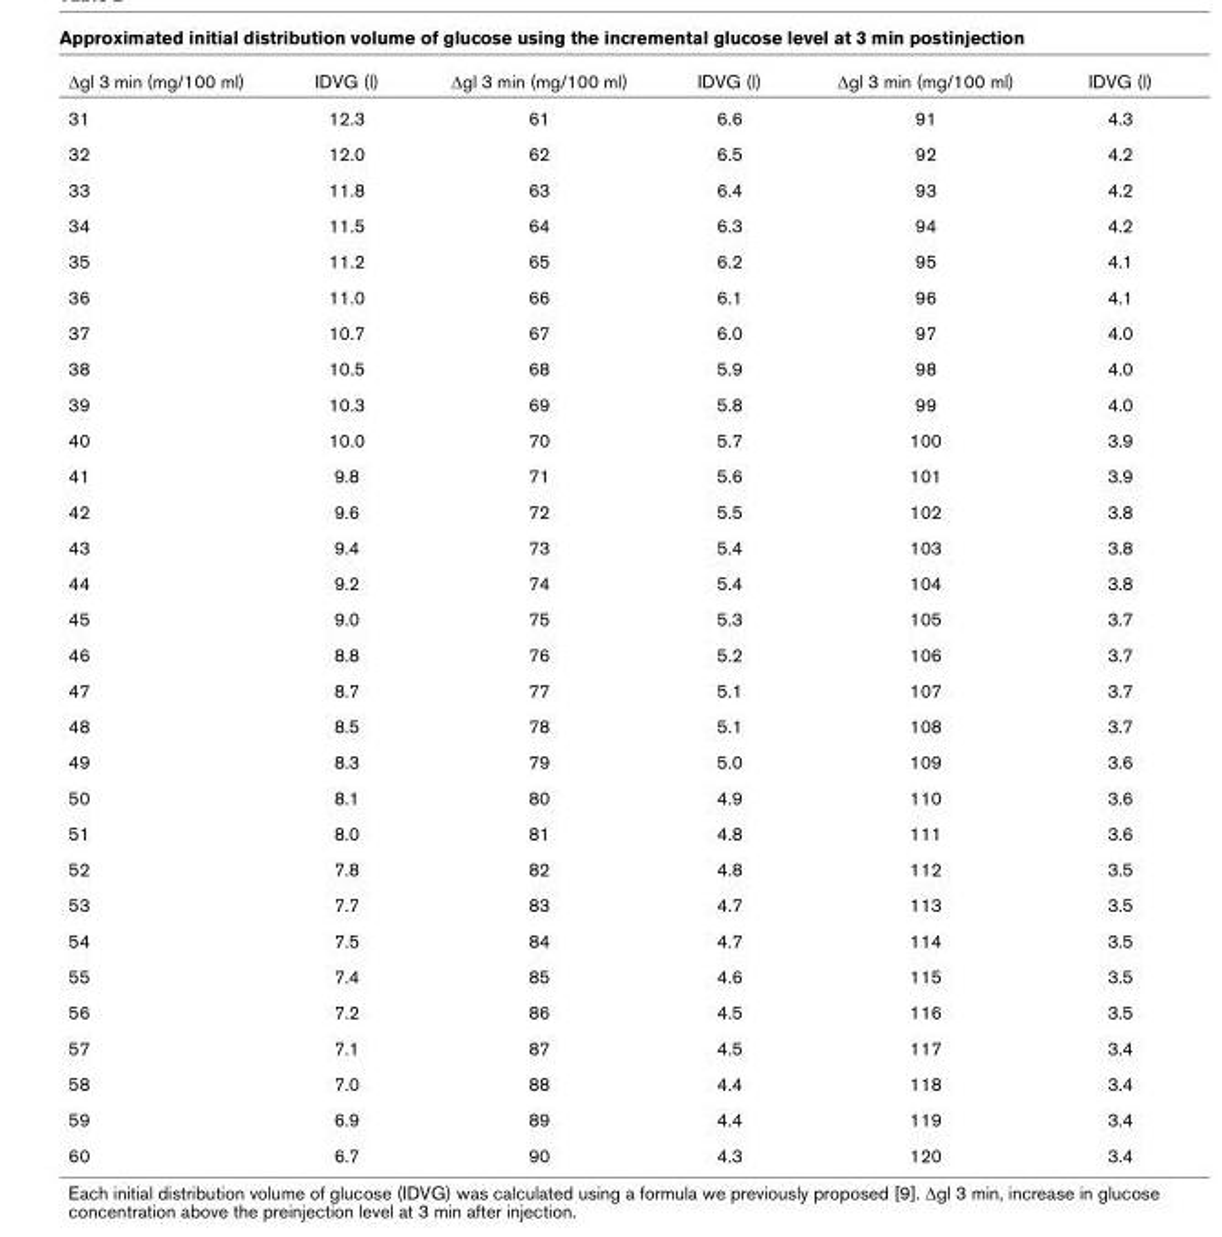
<table><thead><tr><td>∆gl 3 min (mg/100 ml)</td><td>IDVG (l)</td><td>∆gl 3 min (mg/100 ml)</td><td>IDVG (l)</td><td>∆gl 3 min (mg/100 ml)</td><td>IDVG (l)</td></tr></thead><tbody><tr><td>31</td><td>12.3</td><td>61</td><td>6.6</td><td>91</td><td>4.3</td></tr><tr><td>32</td><td>12.0</td><td>62</td><td>6.5</td><td>92</td><td>4.2</td></tr><tr><td>33</td><td>11.8</td><td>63</td><td>6.4</td><td>93</td><td>4.2</td></tr><tr><td>34</td><td>11.5</td><td>64</td><td>6.3</td><td>94</td><td>4.2</td></tr><tr><td>35</td><td>11.2</td><td>65</td><td>6.2</td><td>95</td><td>4.1</td></tr><tr><td>36</td><td>11.0</td><td>66</td><td>6.1</td><td>96</td><td>4.1</td></tr><tr><td>37</td><td>10.7</td><td>67</td><td>6.0</td><td>97</td><td>4.0</td></tr><tr><td>38</td><td>10.5</td><td>68</td><td>5.9</td><td>98</td><td>4.0</td></tr><tr><td>39</td><td>10.3</td><td>69</td><td>5.8</td><td>99</td><td>4.0</td></tr><tr><td>40</td><td>10.0</td><td>70</td><td>5.7</td><td>100</td><td>3.9</td></tr><tr><td>41</td><td>9.8</td><td>71</td><td>5.6</td><td>101</td><td>3.9</td></tr><tr><td>42</td><td>9.6</td><td>72</td><td>5.5</td><td>102</td><td>3.8</td></tr><tr><td>43</td><td>9.4</td><td>73</td><td>5.4</td><td>103</td><td>3.8</td></tr><tr><td>44</td><td>9.2</td><td>74</td><td>5.4</td><td>104</td><td>3.8</td></tr><tr><td>45</td><td>9.0</td><td>75</td><td>5.3</td><td>105</td><td>3.7</td></tr><tr><td>46</td><td>8.8</td><td>76</td><td>5.2</td><td>106</td><td>3.7</td></tr><tr><td>47</td><td>8.7</td><td>77</td><td>5.1</td><td>107</td><td>3.7</td></tr><tr><td>48</td><td>8.5</td><td>78</td><td>5.1</td><td>108</td><td>3.7</td></tr><tr><td>49</td><td>8.3</td><td>79</td><td>5.0</td><td>109</td><td>3.6</td></tr><tr><td>50</td><td>8.1</td><td>80</td><td>4.9</td><td>110</td><td>3.6</td></tr><tr><td>51</td><td>8.0</td><td>81</td><td>4.8</td><td>111</td><td>3.6</td></tr><tr><td>52</td><td>7.8</td><td>82</td><td>4.8</td><td>112</td><td>3.5</td></tr><tr><td>53</td><td>7.7</td><td>83</td><td>4.7</td><td>113</td><td>3.5</td></tr><tr><td>54</td><td>7.5</td><td>84</td><td>4.7</td><td>114</td><td>3.5</td></tr><tr><td>55</td><td>7.4</td><td>85</td><td>4.6</td><td>115</td><td>3.5</td></tr><tr><td>56</td><td>7.2</td><td>86</td><td>4.5</td><td>116</td><td>3.5</td></tr><tr><td>57</td><td>7.1</td><td>87</td><td>4.5</td><td>117</td><td>3.4</td></tr><tr><td>58</td><td>7.0</td><td>88</td><td>4.4</td><td>118</td><td>3.4</td></tr><tr><td>59</td><td>6.9</td><td>89</td><td>4.4</td><td>119</td><td>3.4</td></tr><tr><td>60</td><td>6.7</td><td>90</td><td>4.3</td><td>120</td><td>3.4</td></tr></tbody></table>